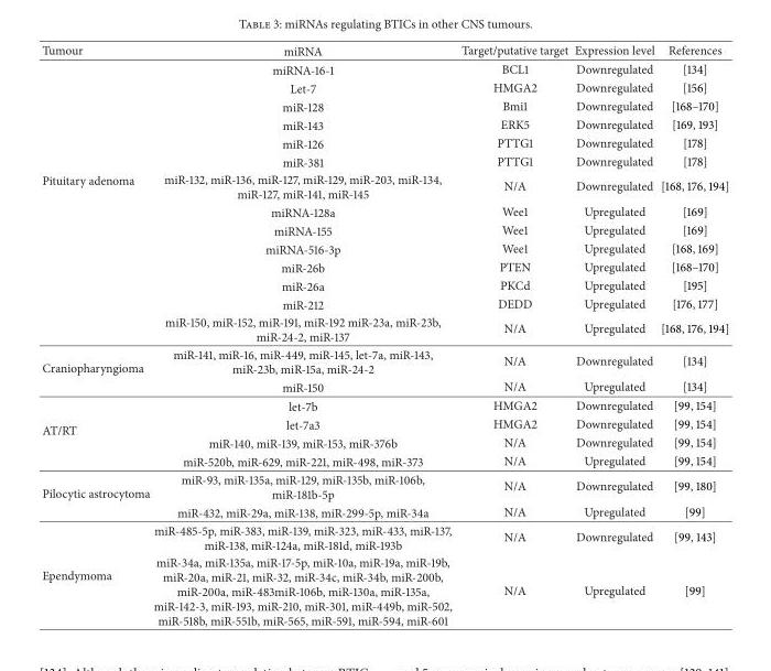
<table><thead><tr><td>Tumour</td><td>miRNA</td><td>Target/putative target</td><td>Expression level</td><td>References</td></tr></thead><tbody><tr><td rowspan="14">Pituitary adenoma</td><td>miRNA-16-1</td><td>BCL1</td><td>Downregulated</td><td>[134]</td></tr><tr><td>Let-7</td><td>HMGA2</td><td>Downregulated</td><td>[156]</td></tr><tr><td>miR-128</td><td>Bmi1</td><td>Downregulated</td><td>[168–170]</td></tr><tr><td>miR-143</td><td>ERK5</td><td>Downregulated</td><td>[169, 193]</td></tr><tr><td>miR-126</td><td>PTTG1</td><td>Downregulated</td><td>[178]</td></tr><tr><td>miR-381</td><td>PTTG1</td><td>Downregulated</td><td>[178]</td></tr><tr><td>miR-132, miR-136, miR-127, miR-129, miR-203, miR-134, miR-127, miR-141, miR-145</td><td>N/A</td><td>Downregulated</td><td>[168, 176, 194]</td></tr><tr><td>miRNA-128a</td><td>Wee1</td><td>Upregulated</td><td>[169]</td></tr><tr><td>miRNA-155</td><td>Wee1</td><td>Upregulated</td><td>[169]</td></tr><tr><td>miRNA-516-3p</td><td>Wee1</td><td>Upregulated</td><td>[168, 169]</td></tr><tr><td>miR-26b</td><td>PTEN</td><td>Upregulated</td><td>[168–170]</td></tr><tr><td>miR-26a</td><td>PKCd</td><td>Upregulated</td><td>[195]</td></tr><tr><td>miR-212</td><td>DEDD</td><td>Upregulated</td><td>[176, 177]</td></tr><tr><td>miR-150, miR-152, miR-191, miR-192 miR-23a, miR-23b, miR-24-2, miR-137</td><td>N/A</td><td>Upregulated</td><td>[168, 176, 194]</td></tr><tr><td rowspan="2">Craniopharyngioma</td><td>miR-141, miR-16, miR-449, miR-145, let-7a, miR-143, miR-23b, miR-15a, miR-24-2</td><td>N/A</td><td>Downregulated</td><td>[134]</td></tr><tr><td>miR-150</td><td>N/A</td><td>Upregulated</td><td>[134]</td></tr><tr><td rowspan="4">AT/RT</td><td>let-7b</td><td>HMGA2</td><td>Downregulated</td><td>[99, 154]</td></tr><tr><td>let-7a3</td><td>HMGA2</td><td>Downregulated</td><td>[99, 154]</td></tr><tr><td>miR-140, miR-139, miR-153, miR-376b</td><td>N/A</td><td>Downregulated</td><td>[99, 154]</td></tr><tr><td>miR-520b, miR-629, miR-221, miR-498, miR-373</td><td>N/A</td><td>Upregulated</td><td>[99, 154]</td></tr><tr><td rowspan="2">Pilocytic astrocytoma</td><td>miR-93, miR-135a, miR-129, miR-135b, miR-106b, miR-181b-5p</td><td>N/A</td><td>Downregulated</td><td>[99, 180]</td></tr><tr><td>miR-432, miR-29a, miR-138, miR-299-5p, miR-34a</td><td>N/A</td><td>Upregulated</td><td>[99]</td></tr><tr><td rowspan="2">Ependymoma</td><td>miR-485-5p, miR-383, miR-139, miR-323, miR-433, miR-137, miR-138, miR-124a, miR-181d, miR-193b</td><td>N/A</td><td>Downregulated</td><td>[99, 143]</td></tr><tr><td>miR-34a, miR-135a, miR-17-5p, miR-10a, miR-19a, miR-19b, miR-20a, miR-21, miR-32, miR-34c, miR-34b, miR-200b, miR-200a, miR-483miR-106b, miR-130a, miR-135a, miR-142-3, miR-193, miR-210, miR-301, miR-449b, miR-502, miR-518b, miR-551b, miR-565, miR-591, miR-594, miR-601</td><td>N/A</td><td>Upregulated</td><td>[99]</td></tr></tbody></table>